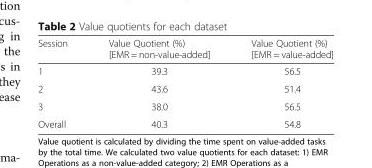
<table><thead><tr><td>Session</td><td>Value Quotient (%) [EMR = non-value-added]</td><td>Value Quotient (%) [EMR = value-added]</td></tr></thead><tbody><tr><td>1</td><td>39.3</td><td>56.5</td></tr><tr><td>2</td><td>43.6</td><td>51.4</td></tr><tr><td>3</td><td>38.0</td><td>56.5</td></tr><tr><td>Overall</td><td>40.3</td><td>54.8</td></tr></tbody></table>